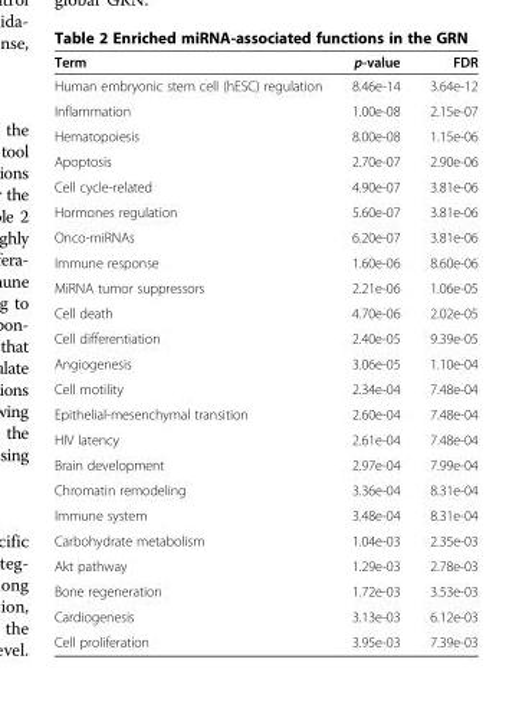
<table><thead><tr><td>Term</td><td>p-value</td><td>FDR</td></tr></thead><tbody><tr><td>Human embryonic stem cell (hESC) regulation</td><td>8.46e-14</td><td>3.64e-12</td></tr><tr><td>Inflammation</td><td>1.00e-08</td><td>2.15e-07</td></tr><tr><td>Hematopoiesis</td><td>8.00e-08</td><td>1.15e-06</td></tr><tr><td>Apoptosis</td><td>2.70e-07</td><td>2.90e-06</td></tr><tr><td>Cell cycle-related</td><td>4.90e-07</td><td>3.81e-06</td></tr><tr><td>Hormones regulation</td><td>5.60e-07</td><td>3.81e-06</td></tr><tr><td>Onco-miRNAs</td><td>6.20e-07</td><td>3.81e-06</td></tr><tr><td>Immune response</td><td>1.60e-06</td><td>8.60e-06</td></tr><tr><td>MiRNA tumor suppressors</td><td>2.21e-06</td><td>1.06e-05</td></tr><tr><td>Cell death</td><td>4.70e-06</td><td>2.02e-05</td></tr><tr><td>Cell differentiation</td><td>2.40e-05</td><td>9.39e-05</td></tr><tr><td>Angiogenesis</td><td>3.06e-05</td><td>1.10e-04</td></tr><tr><td>Cell motility</td><td>2.34e-04</td><td>7.48e-04</td></tr><tr><td>Epithelial-mesenchymal transition</td><td>2.60e-04</td><td>7.48e-04</td></tr><tr><td>HIV latency</td><td>2.61e-04</td><td>7.48e-04</td></tr><tr><td>Brain development</td><td>2.97e-04</td><td>7.99e-04</td></tr><tr><td>Chromatin remodeling</td><td>3.36e-04</td><td>8.31e-04</td></tr><tr><td>Immune system</td><td>3.48e-04</td><td>8.31e-04</td></tr><tr><td>Carbohydrate metabolism</td><td>1.04e-03</td><td>2.35e-03</td></tr><tr><td>Akt pathway</td><td>1.29e-03</td><td>2.78e-03</td></tr><tr><td>Bone regeneration</td><td>1.72e-03</td><td>3.53e-03</td></tr><tr><td>Cardiogenesis</td><td>3.13e-03</td><td>6.12e-03</td></tr><tr><td>Cell proliferation</td><td>3.95e-03</td><td>7.39e-03</td></tr></tbody></table>